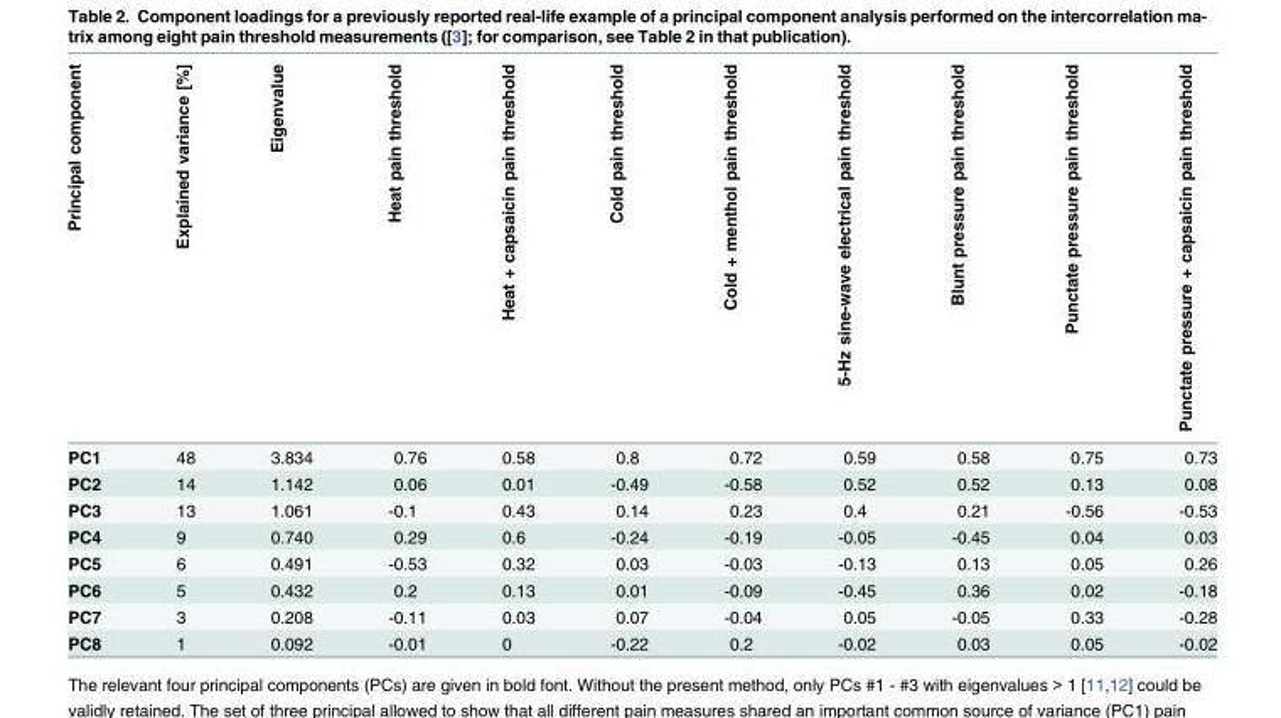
<table><thead><tr><td>Principal component</td><td>Explained variance [%]</td><td>Eigenvalue</td><td>Heat pain threshold</td><td>Heat + capsaicin pain threshold</td><td>Cold pain threshold</td><td>Cold + menthol pain threshold</td><td>5-Hz sine-wave electrical pain threshold</td><td>Blunt pressure pain threshold</td><td>Punctate pressure pain threshold</td><td>Punctate pressure + capsaicin pain threshold</td></tr></thead><tbody><tr><td>PC1</td><td>48</td><td>3.834</td><td>0.76</td><td>0.58</td><td>0.8</td><td>0.72</td><td>0.59</td><td>0.58</td><td>0.75</td><td>0.73</td></tr><tr><td>PC2</td><td>14</td><td>1.142</td><td>0.06</td><td>0.01</td><td>-0.49</td><td>-0.58</td><td>0.52</td><td>0.52</td><td>0.13</td><td>0.08</td></tr><tr><td>PC3</td><td>13</td><td>1.061</td><td>-0.1</td><td>0.43</td><td>0.14</td><td>0.23</td><td>0.4</td><td>0.21</td><td>-0.56</td><td>-0.53</td></tr><tr><td>PC4</td><td>9</td><td>0.740</td><td>0.29</td><td>0.6</td><td>-0.24</td><td>-0.19</td><td>-0.05</td><td>-0.45</td><td>0.04</td><td>0.03</td></tr><tr><td>PC5</td><td>6</td><td>0.491</td><td>-0.53</td><td>0.32</td><td>0.03</td><td>-0.03</td><td>-0.13</td><td>0.13</td><td>0.05</td><td>0.26</td></tr><tr><td>PC6</td><td>5</td><td>0.432</td><td>0.2</td><td>0.13</td><td>0.01</td><td>-0.09</td><td>-0.45</td><td>0.36</td><td>0.02</td><td>-0.18</td></tr><tr><td>PC7</td><td>3</td><td>0.208</td><td>-0.11</td><td>0.03</td><td>0.07</td><td>-0.04</td><td>0.05</td><td>-0.05</td><td>0.33</td><td>-0.28</td></tr><tr><td>PC8</td><td>1</td><td>0.092</td><td>-0.01</td><td>0</td><td>-0.22</td><td>0.2</td><td>-0.02</td><td>0.03</td><td>0.05</td><td>-0.02</td></tr></tbody></table>